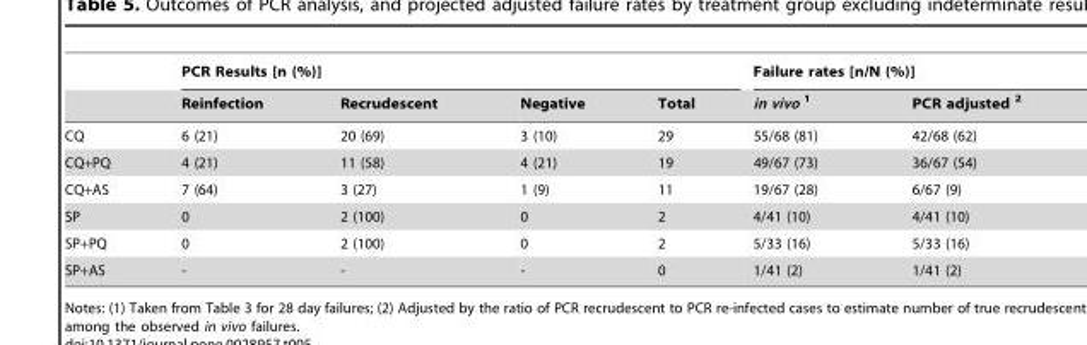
<table><thead><tr><td rowspan="2"></td><td colspan="4">PCR Results [n (%)]</td><td colspan="2">Failure rates [n/N (%)]</td></tr><tr><td>Reinfection</td><td>Recrudescent</td><td>Negative</td><td>Total</td><td>in vivo <sup>1</sup></td><td>PCR adjusted <sup>2</sup></td></tr></thead><tbody><tr><td>CQ</td><td>6 (21)</td><td>20 (69)</td><td>3 (10)</td><td>29</td><td>55/68 (81)</td><td>42/68 (62)</td></tr><tr><td>CQ+PQ</td><td>4 (21)</td><td>11 (58)</td><td>4 (21)</td><td>19</td><td>49/67 (73)</td><td>36/67 (54)</td></tr><tr><td>CQ+AS</td><td>7 (64)</td><td>3 (27)</td><td>1 (9)</td><td>11</td><td>19/67 (28)</td><td>6/67 (9)</td></tr><tr><td>SP</td><td>0</td><td>2 (100)</td><td>0</td><td>2</td><td>4/41 (10)</td><td>4/41 (10)</td></tr><tr><td>SP+PQ</td><td>0</td><td>2 (100)</td><td>0</td><td>2</td><td>5/33 (16)</td><td>5/33 (16)</td></tr><tr><td>SP+AS</td><td>-</td><td>-</td><td>-</td><td>0</td><td>1/41 (2)</td><td>1/41 (2)</td></tr></tbody></table>